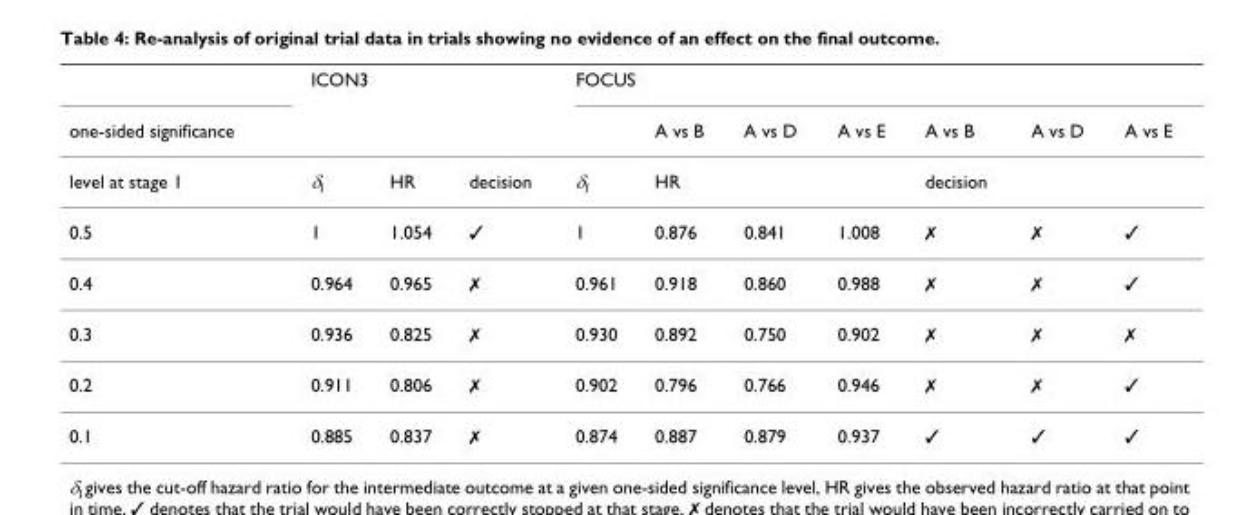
<table><thead><tr><td rowspan="2">one-sided significance</td><td colspan="3">ICON3</td><td colspan="7">FOCUS</td></tr><tr><td></td><td></td><td></td><td></td><td>A vs B</td><td>A vs D</td><td>A vs E</td><td>A vs B</td><td>A vs D</td><td>A vs E</td></tr></thead><tbody><tr><td>level at stage 1</td><td>δ<sub>I</sub></td><td>HR</td><td>decision</td><td>δ<sub>I</sub></td><td>HR</td><td></td><td></td><td>decision</td><td></td><td></td></tr><tr><td>0.5</td><td>1</td><td>1.054</td><td>✓</td><td>1</td><td>0.876</td><td>0.841</td><td>1.008</td><td>✗</td><td>✗</td><td>✓</td></tr><tr><td>0.4</td><td>0.964</td><td>0.965</td><td>✗</td><td>0.961</td><td>0.918</td><td>0.860</td><td>0.988</td><td>✗</td><td>✗</td><td>✓</td></tr><tr><td>0.3</td><td>0.936</td><td>0.825</td><td>✗</td><td>0.930</td><td>0.892</td><td>0.750</td><td>0.902</td><td>✗</td><td>✗</td><td>✗</td></tr><tr><td>0.2</td><td>0.911</td><td>0.806</td><td>✗</td><td>0.902</td><td>0.796</td><td>0.766</td><td>0.946</td><td>✗</td><td>✗</td><td>✓</td></tr><tr><td>0.1</td><td>0.885</td><td>0.837</td><td>✗</td><td>0.874</td><td>0.887</td><td>0.879</td><td>0.937</td><td>✓</td><td>✓</td><td>✓</td></tr></tbody></table>